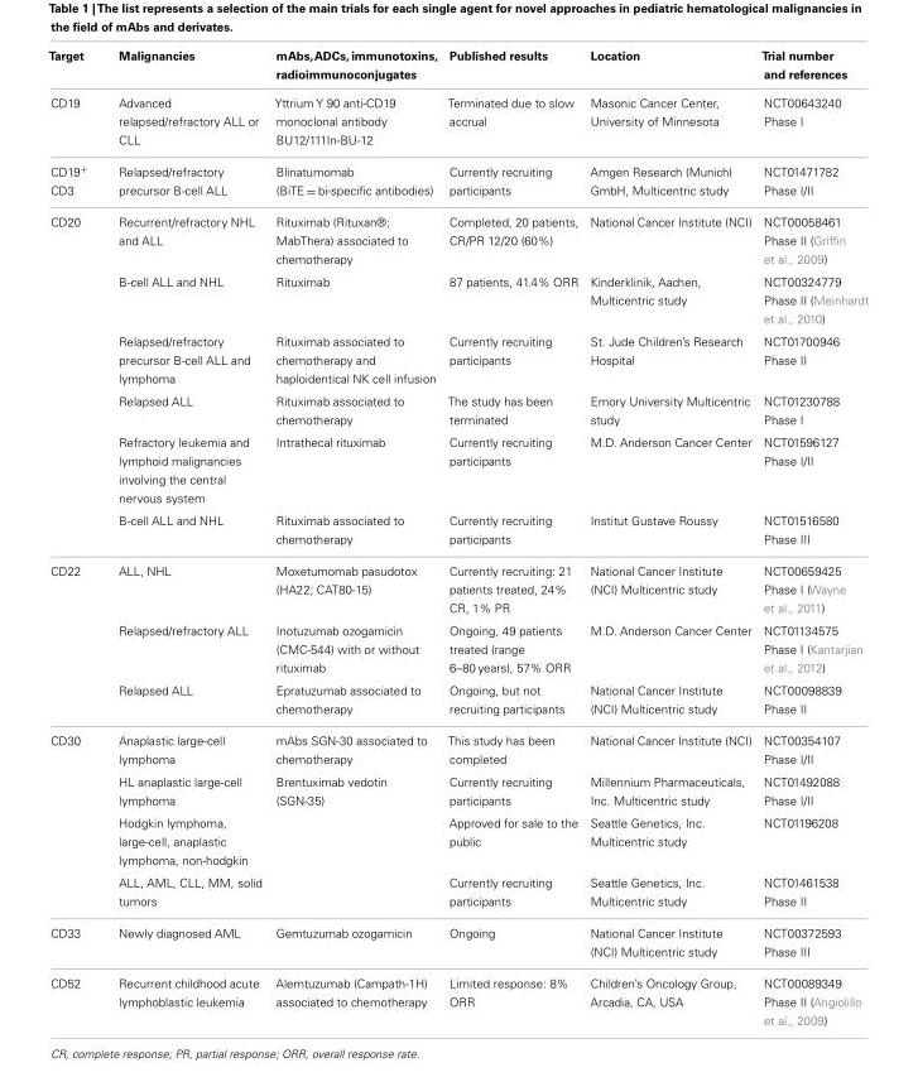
<table><thead><tr><td>Target</td><td>Malignancies</td><td>mAbs,ADCs, immunotoxins, radioimmunoconjugates</td><td>Published results</td><td>Location</td><td>Trial number and references</td></tr></thead><tbody><tr><td>CD19</td><td>Advanced relapsed/refractory ALL or CLL</td><td>Yttrium Y 90 anti-CD19 monoclonal antibody BU12/111In-BU-12</td><td>Terminated due to slow accrual</td><td>Masonic Cancer Center, University of Minnesota</td><td>NCT00643240 Phase I</td></tr><tr><td>CD19<sup>+</sup> CD3</td><td>Relapsed/refractory precursor B-cell ALL</td><td>Blinatumomab (BiTE = bi-specific antibodies)</td><td>Currently recruiting participants</td><td>Amgen Research (Munich) GmbH, Multicentric study</td><td>NCT01471782 Phase I/II</td></tr><tr><td rowspan="6">CD20</td><td>Recurrent/refractory NHL and ALL</td><td>Rituximab (Rituxan<sup>®</sup>; MabThera) associated to chemotherapy</td><td>Completed, 20 patients, CR/PR 12/20 (60%)</td><td>National Cancer Institute (NCI)</td><td>NCT00058461 Phase II (Griffin et al., 2009)</td></tr><tr><td>B-cell ALL and NHL</td><td>Rituximab</td><td>87 patients, 41.4% ORR</td><td>Kinderklinik, Aachen, Multicentric study</td><td>NCT00324779 Phase II (Meinhardt et al., 2010)</td></tr><tr><td>Relapsed/refractory precursor B-cell ALL and lymphoma</td><td>Rituximab associated to chemotherapy and haploidentical NK cell infusion</td><td>Currently recruiting participants</td><td>St. Jude Children’s Research Hospital</td><td>NCT01700946 Phase II</td></tr><tr><td>Relapsed ALL</td><td>Rituximab associated to chemotherapy</td><td>The study has been terminated</td><td>Emory University Multicentric study</td><td>NCT01230788 Phase I</td></tr><tr><td>Refractory leukemia and lymphoid malignancies involving the central nervous system</td><td>Intrathecal rituximab</td><td>Currently recruiting participants</td><td>M.D. Anderson Cancer Center</td><td>NCT01596127 Phase I/II</td></tr><tr><td>B-cell ALL and NHL</td><td>Rituximab associated to chemotherapy</td><td>Currently recruiting participants</td><td>Institut Gustave Roussy</td><td>NCT01516580 Phase III</td></tr><tr><td rowspan="3">CD22</td><td>ALL, NHL</td><td>Moxetumomab pasudotox (HA22; CAT80-15)</td><td>Currently recruiting: 21 patients treated, 24% CR, 1% PR</td><td>National Cancer Institute (NCI) Multicentric study</td><td>NCT00659425 Phase I (Wayne et al., 2011)</td></tr><tr><td>Relapsed/refractory ALL</td><td>Inotuzumab ozogamicin (CMC-544) with or without rituximab</td><td>Ongoing, 49 patients treated (range 6–80 years), 57% ORR</td><td>M.D. Anderson Cancer Center</td><td>NCT01134575 Phase I (Kantarjian et al., 2012)</td></tr><tr><td>Relapsed ALL</td><td>Epratuzumab associated to chemotherapy</td><td>Ongoing, but not recruiting participants</td><td>National Cancer Institute (NCI) Multicentric study</td><td>NCT00098839 Phase II</td></tr><tr><td rowspan="4">CD30</td><td>Anaplastic large-cell lymphoma</td><td>mAbs SGN-30 associated to chemotherapy</td><td>This study has been completed</td><td>National Cancer Institute (NCI)</td><td>NCT00354107 Phase I/II</td></tr><tr><td>HL anaplastic large-cell lymphoma</td><td>Brentuximab vedotin (SGN-35)</td><td>Currently recruiting participants</td><td>Millennium Pharmaceuticals, Inc. Multicentric study</td><td>NCT01492088 Phase I/II</td></tr><tr><td>Hodgkin lymphoma, large-cell, anaplastic lymphoma, non-hodgkin</td><td></td><td>Approved for sale to the public</td><td>Seattle Genetics, Inc. Multicentric study</td><td>NCT01196208</td></tr><tr><td>ALL, AML, CLL, MM, solid tumors</td><td></td><td>Currently recruiting participants</td><td>Seattle Genetics, Inc. Multicentric study</td><td>NCT01461538 Phase II</td></tr><tr><td>CD33</td><td>Newly diagnosed AML</td><td>Gemtuzumab ozogamicin</td><td>Ongoing</td><td>National Cancer Institute (NCI) Multicentric study</td><td>NCT00372593 Phase III</td></tr><tr><td>CD52</td><td>Recurrent childhood acute lymphoblastic leukemia</td><td>Alemtuzumab (Campath-1H) associated to chemotherapy</td><td>Limited response: 8% ORR</td><td>Children’s Oncology Group, Arcadia, CA, USA</td><td>NCT00089349 Phase II (Angiolillo et al., 2009)</td></tr></tbody></table>